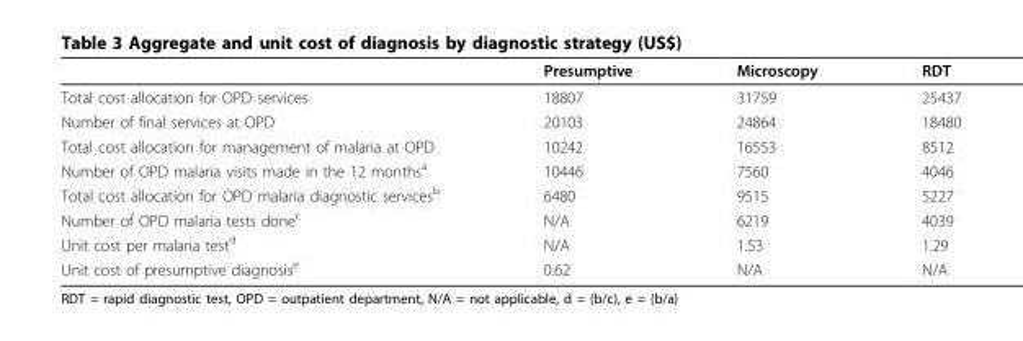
<table><thead><tr><td></td><td>Presumptive</td><td>Microscopy</td><td>RDT</td></tr></thead><tbody><tr><td>Total cost allocation for OPD services</td><td>18807</td><td>31759</td><td>25437</td></tr><tr><td>Number of final services at OPD</td><td>20103</td><td>24864</td><td>18480</td></tr><tr><td>Total cost allocation for management of malaria at OPD</td><td>10242</td><td>16553</td><td>8512</td></tr><tr><td>Number of OPD malaria visits made in the 12 months<sup>a</sup></td><td>10446</td><td>7560</td><td>4046</td></tr><tr><td>Total cost allocation for OPD malaria diagnostic services<sup>b</sup></td><td>6480</td><td>9515</td><td>5227</td></tr><tr><td>Number of OPD malaria tests done<sup>c</sup></td><td>N/A</td><td>6219</td><td>4039</td></tr><tr><td>Unit cost per malaria test<sup>d</sup></td><td>N/A</td><td>1.53</td><td>1.29</td></tr><tr><td>Unit cost of presumptive diagnosis<sup>e</sup></td><td>0.62</td><td>N/A</td><td>N/A</td></tr></tbody></table>